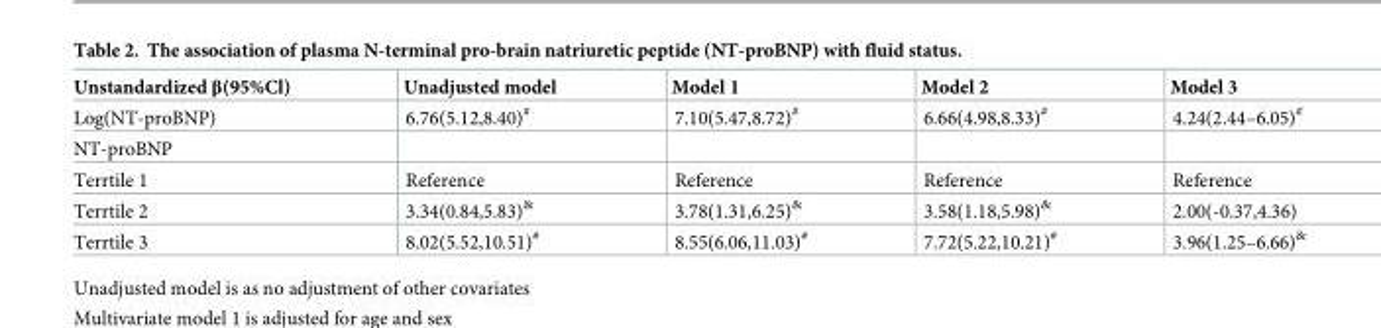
<table><thead><tr><td>Unstandardized β(95%Cl)</td><td>Unadjusted model</td><td>Model 1</td><td>Model 2</td><td>Model 3</td></tr></thead><tbody><tr><td>Log(NT-proBNP)</td><td>6.76(5.12,8.40)<sup>#</sup></td><td>7.10(5.47,8.72)<sup>#</sup></td><td>6.66(4.98,8.33)<sup>#</sup></td><td>4.24(2.44–6.05)<sup>#</sup></td></tr><tr><td colspan="5">NT-proBNP</td></tr><tr><td>Terrtile 1</td><td>Reference</td><td>Reference</td><td>Reference</td><td>Reference</td></tr><tr><td>Terrtile 2</td><td>3.34(0.84,5.83)<sup>&amp;</sup></td><td>3.78(1.31,6.25)<sup>&amp;</sup></td><td>3.58(1.18,5.98)<sup>&amp;</sup></td><td>2.00(-0.37,4.36)</td></tr><tr><td>Terrtile 3</td><td>8.02(5.52,10.51)<sup>#</sup></td><td>8.55(6.06,11.03)<sup>#</sup></td><td>7.72(5.22,10.21)<sup>#</sup></td><td>3.96(1.25–6.66)<sup>&amp;</sup></td></tr></tbody></table>